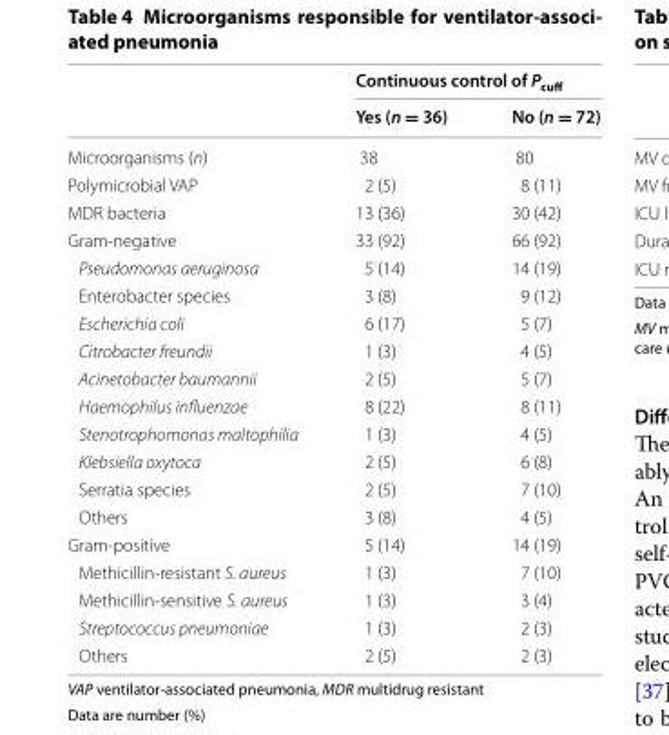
<table><thead><tr><td rowspan="2"></td><td colspan="2">Continuous control of P<sub>cuff</sub></td></tr><tr><td>Yes (n = 36)</td><td>No (n = 72)</td></tr></thead><tbody><tr><td>Microorganisms (n)</td><td>38</td><td>80</td></tr><tr><td>Polymicrobial VAP</td><td>2 (5)</td><td>8 (11)</td></tr><tr><td>MDR bacteria</td><td>13 (36)</td><td>30 (42)</td></tr><tr><td>Gram-negative</td><td>33 (92)</td><td>66 (92)</td></tr><tr><td>Pseudomonas aeruginosa</td><td>5 (14)</td><td>14 (19)</td></tr><tr><td>Enterobacter species</td><td>3 (8)</td><td>9 (12)</td></tr><tr><td>Escherichia coli</td><td>6 (17)</td><td>5 (7)</td></tr><tr><td>Citrobacter freundii</td><td>1 (3)</td><td>4 (5)</td></tr><tr><td>Acinetobacter baumannii</td><td>2 (5)</td><td>5 (7)</td></tr><tr><td>Haemophilus influenzae</td><td>8 (22)</td><td>8 (11)</td></tr><tr><td>Stenotrophomonas maltophilia</td><td>1 (3)</td><td>4 (5)</td></tr><tr><td>Klebsiella oxytoca</td><td>2 (5)</td><td>6 (8)</td></tr><tr><td>Serratia species</td><td>2 (5)</td><td>7 (10)</td></tr><tr><td>Others</td><td>3 (8)</td><td>4 (5)</td></tr><tr><td>Gram-positive</td><td>5 (14)</td><td>14 (19)</td></tr><tr><td>Methicillin-resistant S. aureus</td><td>1 (3)</td><td>7 (10)</td></tr><tr><td>Methicillin-sensitive S. aureus</td><td>1 (3)</td><td>3 (4)</td></tr><tr><td>Streptococcus pneumoniae</td><td>1 (3)</td><td>2 (3)</td></tr><tr><td>Others</td><td>2 (5)</td><td>2 (3)</td></tr></tbody></table>